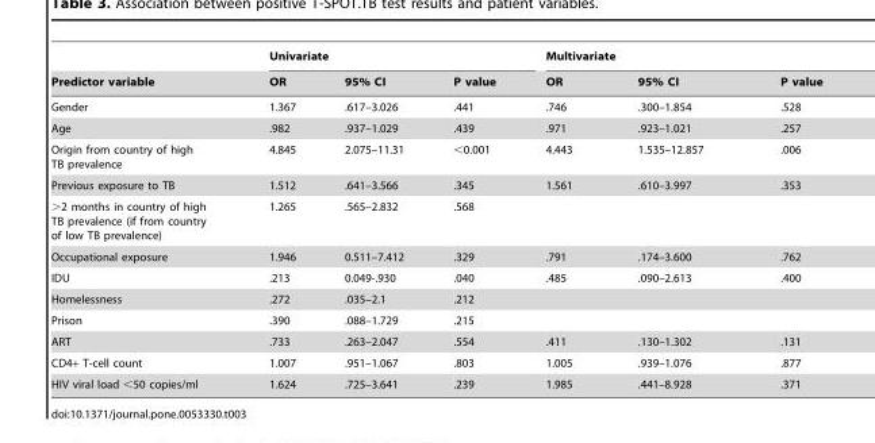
<table><thead><tr><td rowspan="2">Predictor variable</td><td colspan="3">Univariate</td><td colspan="3">Multivariate</td></tr><tr><td>OR</td><td>95% CI</td><td>P value</td><td>OR</td><td>95% CI</td><td>P value</td></tr></thead><tbody><tr><td>Gender</td><td>1.367</td><td>.617–3.026</td><td>.441</td><td>.746</td><td>.300–1.854</td><td>.528</td></tr><tr><td>Age</td><td>.982</td><td>.937–1.029</td><td>.439</td><td>.971</td><td>.923–1.021</td><td>.257</td></tr><tr><td>Origin from country of high TB prevalence</td><td>4.845</td><td>2.075–11.31</td><td>&lt;0.001</td><td>4.443</td><td>1.535–12.857</td><td>.006</td></tr><tr><td>Previous exposure to TB</td><td>1.512</td><td>.641–3.566</td><td>.345</td><td>1.561</td><td>.610–3.997</td><td>.353</td></tr><tr><td>&gt;2 months in country of high TB prevalence (if from country of low TB prevalence)</td><td>1.265</td><td>.565–2.832</td><td>.568</td><td colspan="3"></td></tr><tr><td>Occupational exposure</td><td>1.946</td><td>0.511–7.412</td><td>.329</td><td>.791</td><td>.174–3.600</td><td>.762</td></tr><tr><td>IDU</td><td>.213</td><td>0.049-.930</td><td>.040</td><td>.485</td><td>.090–2.613</td><td>.400</td></tr><tr><td>Homelessness</td><td>.272</td><td>.035–2.1</td><td colspan="4">.212</td></tr><tr><td>Prison</td><td>.390</td><td>.088–1.729</td><td colspan="4">.215</td></tr><tr><td>ART</td><td>.733</td><td>.263–2.047</td><td>.554</td><td>.411</td><td>.130–1.302</td><td>.131</td></tr><tr><td>CD4+ T-cell count</td><td>1.007</td><td>.951–1.067</td><td>.803</td><td>1.005</td><td>.939–1.076</td><td>.877</td></tr><tr><td>HIV viral load &lt;50 copies/ml</td><td>1.624</td><td>.725–3.641</td><td>.239</td><td>1.985</td><td>.441–8.928</td><td>.371</td></tr></tbody></table>